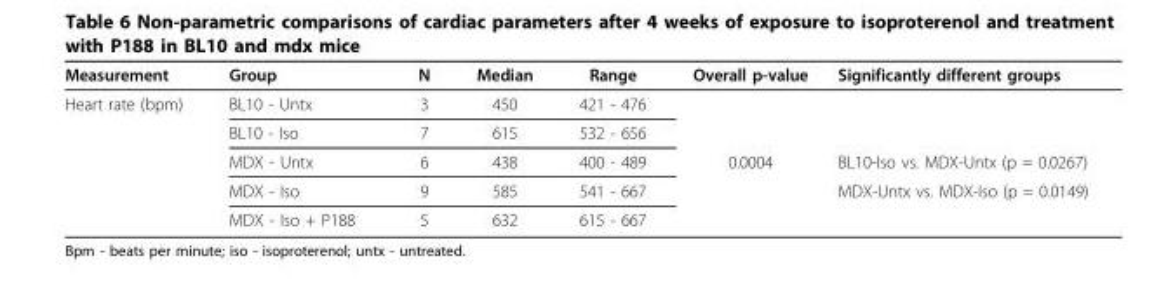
<table><thead><tr><td>Measurement</td><td>Group</td><td>N</td><td>Median</td><td>Range</td><td>Overall p-value</td><td>Significantly different groups</td></tr></thead><tbody><tr><td rowspan="5">Heart rate (bpm)</td><td>BL10 - Untx</td><td>3</td><td>450</td><td>421 - 476</td><td></td><td></td></tr><tr><td>BL10 - Iso</td><td>7</td><td>615</td><td>532 - 656</td><td></td><td></td></tr><tr><td>MDX - Untx</td><td>6</td><td>438</td><td>400 - 489</td><td>0.0004</td><td>BL10-Iso vs. MDX-Untx (p = 0.0267)</td></tr><tr><td>MDX - Iso</td><td>9</td><td>585</td><td>541 - 667</td><td></td><td>MDX-Untx vs. MDX-Iso (p = 0.0149)</td></tr><tr><td>MDX - Iso + P188</td><td>5</td><td>632</td><td>615 - 667</td><td></td><td></td></tr></tbody></table>